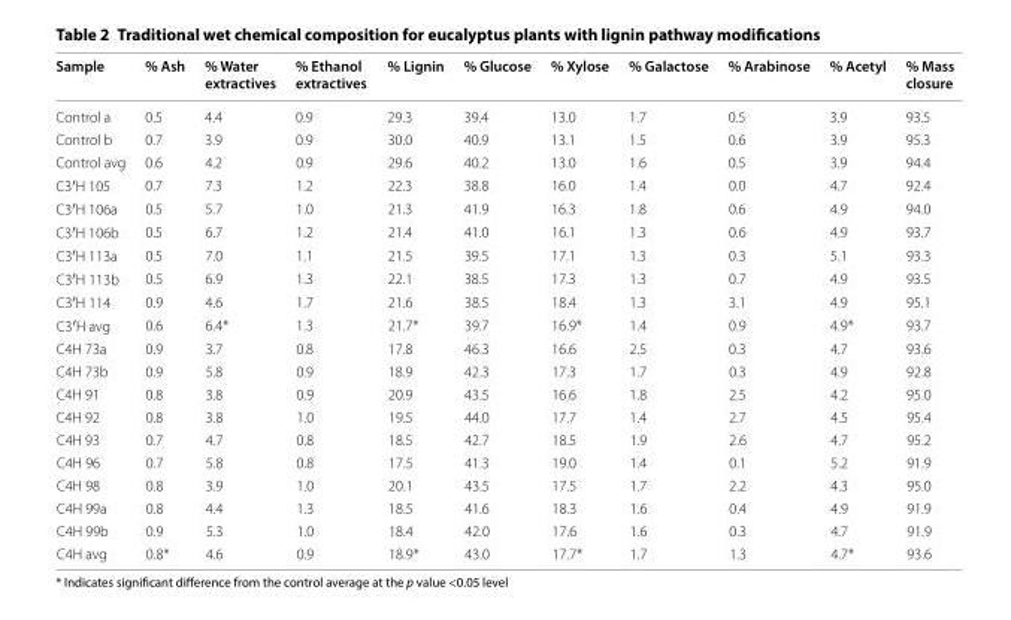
<table><thead><tr><td>Sample</td><td>% Ash</td><td>% Water extractives</td><td>% Ethanol extractives</td><td>% Lignin</td><td>% Glucose</td><td>% Xylose</td><td>% Galactose</td><td>% Arabinose</td><td>% Acetyl</td><td>% Mass closure</td></tr></thead><tbody><tr><td>Control a</td><td>0.5</td><td>4.4</td><td>0.9</td><td>29.3</td><td>39.4</td><td>13.0</td><td>1.7</td><td>0.5</td><td>3.9</td><td>93.5</td></tr><tr><td>Control b</td><td>0.7</td><td>3.9</td><td>0.9</td><td>30.0</td><td>40.9</td><td>13.1</td><td>1.5</td><td>0.6</td><td>3.9</td><td>95.3</td></tr><tr><td>Control avg</td><td>0.6</td><td>4.2</td><td>0.9</td><td>29.6</td><td>40.2</td><td>13.0</td><td>1.6</td><td>0.5</td><td>3.9</td><td>94.4</td></tr><tr><td>C3′H 105</td><td>0.7</td><td>7.3</td><td>1.2</td><td>22.3</td><td>38.8</td><td>16.0</td><td>1.4</td><td>0.0</td><td>4.7</td><td>92.4</td></tr><tr><td>C3′H 106a</td><td>0.5</td><td>5.7</td><td>1.0</td><td>21.3</td><td>41.9</td><td>16.3</td><td>1.8</td><td>0.6</td><td>4.9</td><td>94.0</td></tr><tr><td>C3′H 106b</td><td>0.5</td><td>6.7</td><td>1.2</td><td>21.4</td><td>41.0</td><td>16.1</td><td>1.3</td><td>0.6</td><td>4.9</td><td>93.7</td></tr><tr><td>C3′H 113a</td><td>0.5</td><td>7.0</td><td>1.1</td><td>21.5</td><td>39.5</td><td>17.1</td><td>1.3</td><td>0.3</td><td>5.1</td><td>93.3</td></tr><tr><td>C3′H 113b</td><td>0.5</td><td>6.9</td><td>1.3</td><td>22.1</td><td>38.5</td><td>17.3</td><td>1.3</td><td>0.7</td><td>4.9</td><td>93.5</td></tr><tr><td>C3′H 114</td><td>0.9</td><td>4.6</td><td>1.7</td><td>21.6</td><td>38.5</td><td>18.4</td><td>1.3</td><td>3.1</td><td>4.9</td><td>95.1</td></tr><tr><td>C3′H avg</td><td>0.6</td><td>6.4*</td><td>1.3</td><td>21.7*</td><td>39.7</td><td>16.9*</td><td>1.4</td><td>0.9</td><td>4.9*</td><td>93.7</td></tr><tr><td>C4H 73a</td><td>0.9</td><td>3.7</td><td>0.8</td><td>17.8</td><td>46.3</td><td>16.6</td><td>2.5</td><td>0.3</td><td>4.7</td><td>93.6</td></tr><tr><td>C4H 73b</td><td>0.9</td><td>5.8</td><td>0.9</td><td>18.9</td><td>42.3</td><td>17.3</td><td>1.7</td><td>0.3</td><td>4.9</td><td>92.8</td></tr><tr><td>C4H 91</td><td>0.8</td><td>3.8</td><td>0.9</td><td>20.9</td><td>43.5</td><td>16.6</td><td>1.8</td><td>2.5</td><td>4.2</td><td>95.0</td></tr><tr><td>C4H 92</td><td>0.8</td><td>3.8</td><td>1.0</td><td>19.5</td><td>44.0</td><td>17.7</td><td>1.4</td><td>2.7</td><td>4.5</td><td>95.4</td></tr><tr><td>C4H 93</td><td>0.7</td><td>4.7</td><td>0.8</td><td>18.5</td><td>42.7</td><td>18.5</td><td>1.9</td><td>2.6</td><td>4.7</td><td>95.2</td></tr><tr><td>C4H 96</td><td>0.7</td><td>5.8</td><td>0.8</td><td>17.5</td><td>41.3</td><td>19.0</td><td>1.4</td><td>0.1</td><td>5.2</td><td>91.9</td></tr><tr><td>C4H 98</td><td>0.8</td><td>3.9</td><td>1.0</td><td>20.1</td><td>43.5</td><td>17.5</td><td>1.7</td><td>2.2</td><td>4.3</td><td>95.0</td></tr><tr><td>C4H 99a</td><td>0.8</td><td>4.4</td><td>1.3</td><td>18.5</td><td>41.6</td><td>18.3</td><td>1.6</td><td>0.4</td><td>4.9</td><td>91.9</td></tr><tr><td>C4H 99b</td><td>0.9</td><td>5.3</td><td>1.0</td><td>18.4</td><td>42.0</td><td>17.6</td><td>1.6</td><td>0.3</td><td>4.7</td><td>91.9</td></tr><tr><td>C4H avg</td><td>0.8*</td><td>4.6</td><td>0.9</td><td>18.9*</td><td>43.0</td><td>17.7*</td><td>1.7</td><td>1.3</td><td>4.7*</td><td>93.6</td></tr></tbody></table>